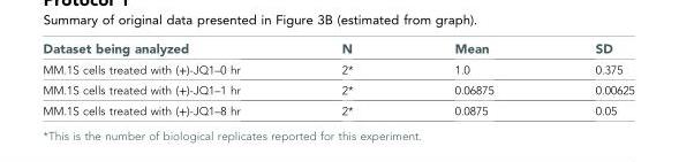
<table><thead><tr><td>Dataset being analyzed</td><td>N</td><td>Mean</td><td>SD</td></tr></thead><tbody><tr><td>MM.1S cells treated with (+)-JQ1–0 hr</td><td>2*</td><td>1.0</td><td>0.375</td></tr><tr><td>MM.1S cells treated with (+)-JQ1–1 hr</td><td>2*</td><td>0.06875</td><td>0.00625</td></tr><tr><td>MM.1S cells treated with (+)-JQ1–8 hr</td><td>2*</td><td>0.0875</td><td>0.05</td></tr></tbody></table>